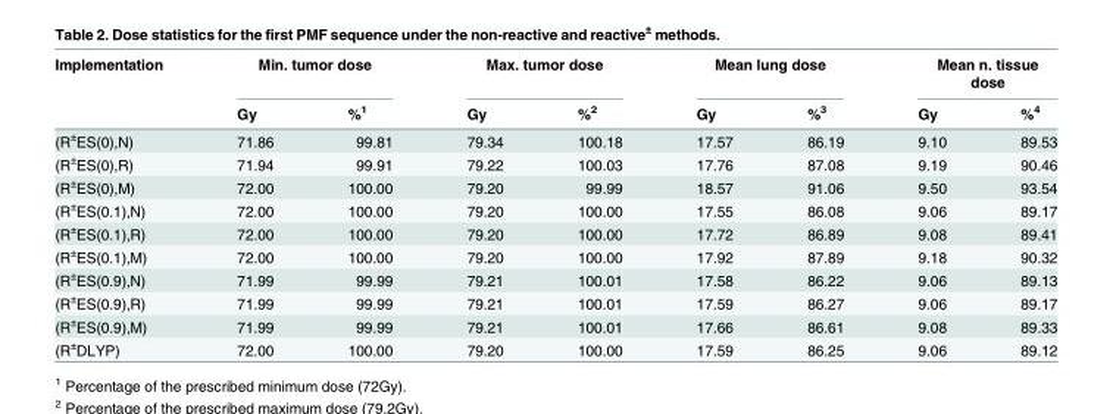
<table><thead><tr><td rowspan="2">Implementation</td><td colspan="2">Min. tumor dose</td><td colspan="2">Max. tumor dose</td><td colspan="2">Mean lung dose</td><td colspan="2">Mean n. tissue dose</td></tr><tr><td>Gy</td><td>%<sup>1</sup></td><td>Gy</td><td>%<sup>2</sup></td><td>Gy</td><td>%<sup>3</sup></td><td>Gy</td><td>%<sup>4</sup></td></tr></thead><tbody><tr><td>(R<sup>±</sup>ES(0),N)</td><td>71.86</td><td>99.81</td><td>79.34</td><td>100.18</td><td>17.57</td><td>86.19</td><td>9.10</td><td>89.53</td></tr><tr><td>(R<sup>±</sup>ES(0),R)</td><td>71.94</td><td>99.91</td><td>79.22</td><td>100.03</td><td>17.76</td><td>87.08</td><td>9.19</td><td>90.46</td></tr><tr><td>(R<sup>±</sup>ES(0),M)</td><td>72.00</td><td>100.00</td><td>79.20</td><td>99.99</td><td>18.57</td><td>91.06</td><td>9.50</td><td>93.54</td></tr><tr><td>(R<sup>±</sup>ES(0.1),N)</td><td>72.00</td><td>100.00</td><td>79.20</td><td>100.00</td><td>17.55</td><td>86.08</td><td>9.06</td><td>89.17</td></tr><tr><td>(R<sup>±</sup>ES(0.1),R)</td><td>72.00</td><td>100.00</td><td>79.20</td><td>100.00</td><td>17.72</td><td>86.89</td><td>9.08</td><td>89.41</td></tr><tr><td>(R<sup>±</sup>ES(0.1),M)</td><td>72.00</td><td>100.00</td><td>79.20</td><td>100.00</td><td>17.92</td><td>87.89</td><td>9.18</td><td>90.32</td></tr><tr><td>(R<sup>±</sup>ES(0.9),N)</td><td>71.99</td><td>99.99</td><td>79.21</td><td>100.01</td><td>17.58</td><td>86.22</td><td>9.06</td><td>89.13</td></tr><tr><td>(R<sup>±</sup>ES(0.9),R)</td><td>71.99</td><td>99.99</td><td>79.21</td><td>100.01</td><td>17.59</td><td>86.27</td><td>9.06</td><td>89.17</td></tr><tr><td>(R<sup>±</sup>ES(0.9),M)</td><td>71.99</td><td>99.99</td><td>79.21</td><td>100.01</td><td>17.66</td><td>86.61</td><td>9.08</td><td>89.33</td></tr><tr><td>(R<sup>±</sup>DLYP)</td><td>72.00</td><td>100.00</td><td>79.20</td><td>100.00</td><td>17.59</td><td>86.25</td><td>9.06</td><td>89.12</td></tr></tbody></table>